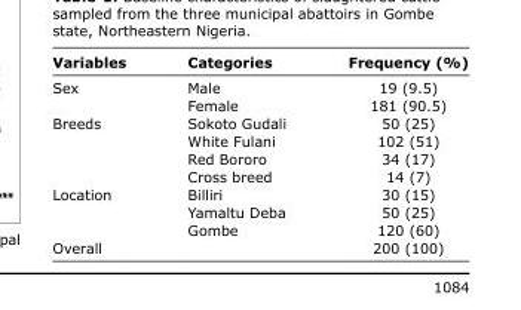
<table><thead><tr><td>Variables</td><td>Categories</td><td>Frequency (%)</td></tr></thead><tbody><tr><td rowspan="2">Sex</td><td>Male</td><td>19 (9.5)</td></tr><tr><td>Female</td><td>181 (90.5)</td></tr><tr><td rowspan="4">Breeds</td><td>Sokoto Gudali</td><td>50 (25)</td></tr><tr><td>White Fulani</td><td>102 (51)</td></tr><tr><td>Red Bororo</td><td>34 (17)</td></tr><tr><td>Cross breed</td><td>14 (7)</td></tr><tr><td rowspan="3">Location</td><td>Billiri</td><td>30 (15)</td></tr><tr><td>Yamaltu Deba</td><td>50 (25)</td></tr><tr><td>Gombe</td><td>120 (60)</td></tr><tr><td>Overall</td><td></td><td>200 (100)</td></tr></tbody></table>